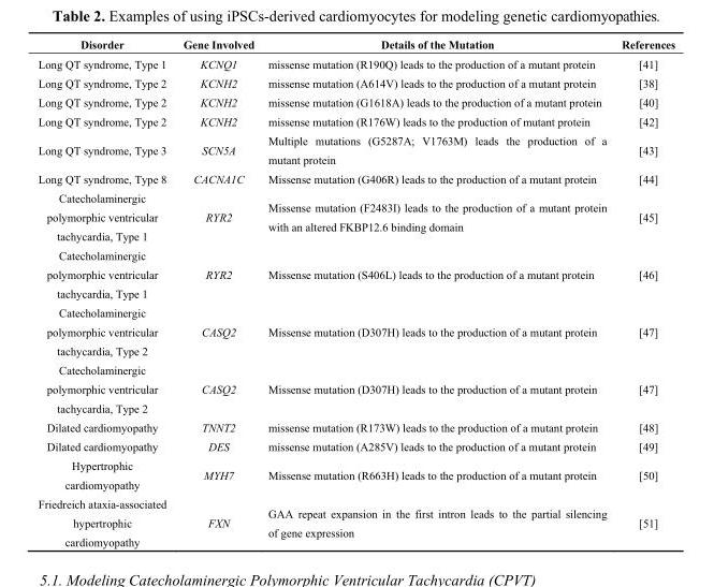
<table><thead><tr><td>Disorder</td><td>Gene Involved</td><td>Details of the Mutation</td><td>References</td></tr></thead><tbody><tr><td>Long QT syndrome, Type 1</td><td>KCNQ1</td><td>missense mutation (R190Q) leads to the production of a mutant protein</td><td>[41]</td></tr><tr><td>Long QT syndrome, Type 2</td><td>KCNH2</td><td>missense mutation (A614V) leads to the production of a mutant protein</td><td>[38]</td></tr><tr><td>Long QT syndrome, Type 2</td><td>KCNH2</td><td>missense mutation (G1618A) leads to the production of a mutant protein</td><td>[40]</td></tr><tr><td>Long QT syndrome, Type 2</td><td>KCNH2</td><td>missense mutation (R176W) leads to the production of mutant protein</td><td>[42]</td></tr><tr><td>Long QT syndrome, Type 3</td><td>SCN5A</td><td>Multiple mutations (G5287A; V1763M) leads the production of a mutant protein</td><td>[43]</td></tr><tr><td>Long QT syndrome, Type 8</td><td>CACNA1C</td><td>Missense mutation (G406R) leads to the production of a mutant protein</td><td>[44]</td></tr><tr><td>Catecholaminergic polymorphic ventricular tachycardia, Type 1</td><td>RYR2</td><td>Missense mutation (F2483I) leads to the production of a mutant protein with an altered FKBP12.6 binding domain</td><td>[45]</td></tr><tr><td>Catecholaminergic polymorphic ventricular tachycardia, Type 1</td><td>RYR2</td><td>Missense mutation (S406L) leads to the production of a mutant protein</td><td>[46]</td></tr><tr><td>Catecholaminergic polymorphic ventricular tachycardia, Type 2</td><td>CASQ2</td><td>Missense mutation (D307H) leads to the production of a mutant protein</td><td>[47]</td></tr><tr><td>Catecholaminergic polymorphic ventricular tachycardia, Type 2</td><td>CASQ2</td><td>Missense mutation (D307H) leads to the production of a mutant protein</td><td>[47]</td></tr><tr><td>Dilated cardiomyopathy</td><td>TNNT2</td><td>missense mutation (R173W) leads to the production of a mutant protein</td><td>[48]</td></tr><tr><td>Dilated cardiomyopathy</td><td>DES</td><td>missense mutation (A285V) leads to the production of a mutant protein</td><td>[49]</td></tr><tr><td>Hypertrophic cardiomyopathy</td><td>MYH7</td><td>Missense mutation (R663H) leads to the production of a mutant protein</td><td>[50]</td></tr><tr><td>Friedreich ataxia-associated hypertrophic cardiomyopathy</td><td>FXN</td><td>GAA repeat expansion in the first intron leads to the partial silencing of gene expression</td><td>[51]</td></tr></tbody></table>